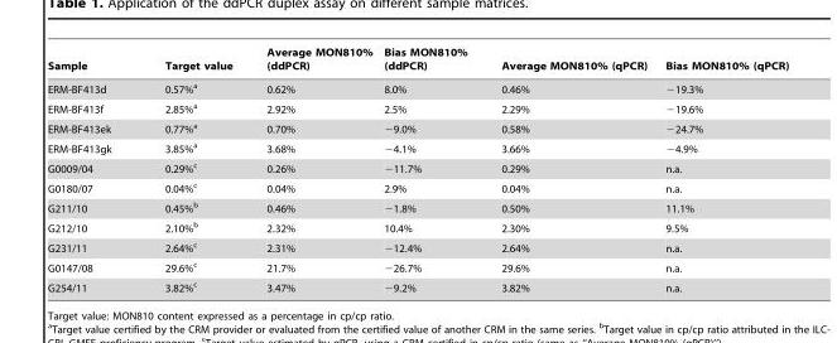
<table><thead><tr><td>Sample</td><td>Target value</td><td>Average MON810% (ddPCR)</td><td>Bias MON810% (ddPCR)</td><td>Average MON810% (qPCR)</td><td>Bias MON810% (qPCR)</td></tr></thead><tbody><tr><td>ERM-BF413d</td><td>0.57%<sup>a</sup></td><td>0.62%</td><td>8.0%</td><td>0.46%</td><td>−19.3%</td></tr><tr><td>ERM-BF413f</td><td>2.85%<sup>a</sup></td><td>2.92%</td><td>2.5%</td><td>2.29%</td><td>−19.6%</td></tr><tr><td>ERM-BF413ek</td><td>0.77%<sup>a</sup></td><td>0.70%</td><td>−9.0%</td><td>0.58%</td><td>−24.7%</td></tr><tr><td>ERM-BF413gk</td><td>3.85%<sup>a</sup></td><td>3.68%</td><td>−4.1%</td><td>3.66%</td><td>−4.9%</td></tr><tr><td>G0009/04</td><td>0.29%<sup>c</sup></td><td>0.26%</td><td>−11.7%</td><td>0.29%</td><td>n.a.</td></tr><tr><td>G0180/07</td><td>0.04%<sup>c</sup></td><td>0.04%</td><td>2.9%</td><td>0.04%</td><td>n.a.</td></tr><tr><td>G211/10</td><td>0.45%<sup>b</sup></td><td>0.46%</td><td>−1.8%</td><td>0.50%</td><td>11.1%</td></tr><tr><td>G212/10</td><td>2.10%<sup>b</sup></td><td>2.32%</td><td>10.4%</td><td>2.30%</td><td>9.5%</td></tr><tr><td>G231/11</td><td>2.64%<sup>c</sup></td><td>2.31%</td><td>−12.4%</td><td>2.64%</td><td>n.a.</td></tr><tr><td>G0147/08</td><td>29.6%<sup>c</sup></td><td>21.7%</td><td>−26.7%</td><td>29.6%</td><td>n.a.</td></tr><tr><td>G254/11</td><td>3.82%<sup>c</sup></td><td>3.47%</td><td>−9.2%</td><td>3.82%</td><td>n.a.</td></tr></tbody></table>